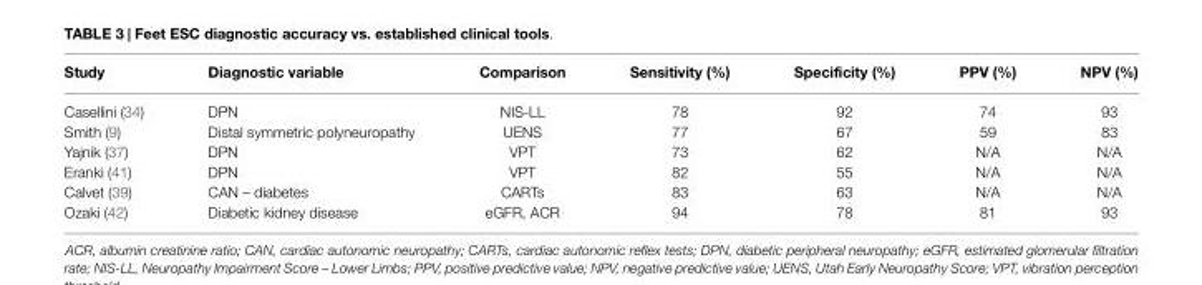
<table><thead><tr><td>Study</td><td>Diagnostic variable</td><td>Comparison</td><td>Sensitivity (%)</td><td>Specificity (%)</td><td>PPV (%)</td><td>NPV (%)</td></tr></thead><tbody><tr><td>Casellini (34)</td><td>DPN</td><td>NIS-LL</td><td>78</td><td>92</td><td>74</td><td>93</td></tr><tr><td>Smith (9)</td><td>Distal symmetric polyneuropathy</td><td>UENS</td><td>77</td><td>67</td><td>59</td><td>83</td></tr><tr><td>Yajnik (37)</td><td>DPN</td><td>VPT</td><td>73</td><td>62</td><td>N/A</td><td>N/A</td></tr><tr><td>Eranki (41)</td><td>DPN</td><td>VPT</td><td>82</td><td>55</td><td>N/A</td><td>N/A</td></tr><tr><td>Calvet (39)</td><td>CAN – diabetes</td><td>CARTs</td><td>83</td><td>63</td><td>N/A</td><td>N/A</td></tr><tr><td>Ozaki (42)</td><td>Diabetic kidney disease</td><td>eGFR, ACR</td><td>94</td><td>78</td><td>81</td><td>93</td></tr></tbody></table>